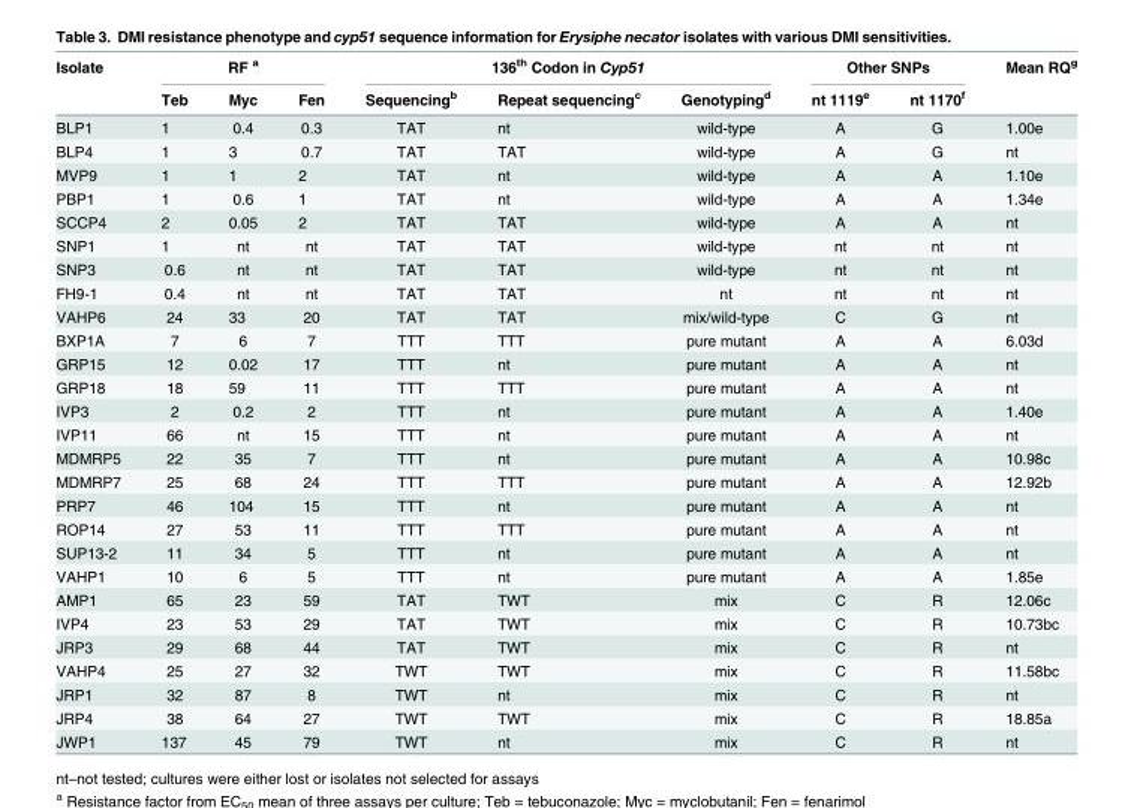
<table><thead><tr><td rowspan="2">Isolate</td><td colspan="3">RF <sup>a</sup></td><td colspan="3">136<sup>th</sup> Codon in Cyp51</td><td colspan="2">Other SNPs</td><td rowspan="2">Mean RQ<sup>g</sup></td></tr><tr><td>Teb</td><td>Myc</td><td>Fen</td><td>Sequencing<sup>b</sup></td><td>Repeat sequencing<sup>c</sup></td><td>Genotyping<sup>d</sup></td><td>nt 1119<sup>e</sup></td><td>nt 1170<sup>f</sup></td></tr></thead><tbody><tr><td>BLP1</td><td>1</td><td>0.4</td><td>0.3</td><td>TAT</td><td>nt</td><td>wild-type</td><td>A</td><td>G</td><td>1.00e</td></tr><tr><td>BLP4</td><td>1</td><td>3</td><td>0.7</td><td>TAT</td><td>TAT</td><td>wild-type</td><td>A</td><td>G</td><td>nt</td></tr><tr><td>MVP9</td><td>1</td><td>1</td><td>2</td><td>TAT</td><td>nt</td><td>wild-type</td><td>A</td><td>A</td><td>1.10e</td></tr><tr><td>PBP1</td><td>1</td><td>0.6</td><td>1</td><td>TAT</td><td>nt</td><td>wild-type</td><td>A</td><td>A</td><td>1.34e</td></tr><tr><td>SCCP4</td><td>2</td><td>0.05</td><td>2</td><td>TAT</td><td>TAT</td><td>wild-type</td><td>A</td><td>A</td><td>nt</td></tr><tr><td>SNP1</td><td>1</td><td>nt</td><td>nt</td><td>TAT</td><td>TAT</td><td>wild-type</td><td>nt</td><td>nt</td><td>nt</td></tr><tr><td>SNP3</td><td>0.6</td><td>nt</td><td>nt</td><td>TAT</td><td>TAT</td><td>wild-type</td><td>nt</td><td>nt</td><td>nt</td></tr><tr><td>FH9-1</td><td>0.4</td><td>nt</td><td>nt</td><td>TAT</td><td>TAT</td><td>nt</td><td>nt</td><td>nt</td><td>nt</td></tr><tr><td>VAHP6</td><td>24</td><td>33</td><td>20</td><td>TAT</td><td>TAT</td><td>mix/wild-type</td><td>C</td><td>G</td><td>nt</td></tr><tr><td>BXP1A</td><td>7</td><td>6</td><td>7</td><td>TTT</td><td>TTT</td><td>pure mutant</td><td>A</td><td>A</td><td>6.03d</td></tr><tr><td>GRP15</td><td>12</td><td>0.02</td><td>17</td><td>TTT</td><td>nt</td><td>pure mutant</td><td>A</td><td>A</td><td>nt</td></tr><tr><td>GRP18</td><td>18</td><td>59</td><td>11</td><td>TTT</td><td>TTT</td><td>pure mutant</td><td>A</td><td>A</td><td>nt</td></tr><tr><td>IVP3</td><td>2</td><td>0.2</td><td>2</td><td>TTT</td><td>nt</td><td>pure mutant</td><td>A</td><td>A</td><td>1.40e</td></tr><tr><td>IVP11</td><td>66</td><td>nt</td><td>15</td><td>TTT</td><td>nt</td><td>pure mutant</td><td>A</td><td>A</td><td>nt</td></tr><tr><td>MDMRP5</td><td>22</td><td>35</td><td>7</td><td>TTT</td><td>nt</td><td>pure mutant</td><td>A</td><td>A</td><td>10.98c</td></tr><tr><td>MDMRP7</td><td>25</td><td>68</td><td>24</td><td>TTT</td><td>TTT</td><td>pure mutant</td><td>A</td><td>A</td><td>12.92b</td></tr><tr><td>PRP7</td><td>46</td><td>104</td><td>15</td><td>TTT</td><td>nt</td><td>pure mutant</td><td>A</td><td>A</td><td>nt</td></tr><tr><td>ROP14</td><td>27</td><td>53</td><td>11</td><td>TTT</td><td>TTT</td><td>pure mutant</td><td>A</td><td>A</td><td>nt</td></tr><tr><td>SUP13-2</td><td>11</td><td>34</td><td>5</td><td>TTT</td><td>nt</td><td>pure mutant</td><td>A</td><td>A</td><td>nt</td></tr><tr><td>VAHP1</td><td>10</td><td>6</td><td>5</td><td>TTT</td><td>nt</td><td>pure mutant</td><td>A</td><td>A</td><td>1.85e</td></tr><tr><td>AMP1</td><td>65</td><td>23</td><td>59</td><td>TAT</td><td>TWT</td><td>mix</td><td>C</td><td>R</td><td>12.06c</td></tr><tr><td>IVP4</td><td>23</td><td>53</td><td>29</td><td>TAT</td><td>TWT</td><td>mix</td><td>C</td><td>R</td><td>10.73bc</td></tr><tr><td>JRP3</td><td>29</td><td>68</td><td>44</td><td>TAT</td><td>TWT</td><td>mix</td><td>C</td><td>R</td><td>nt</td></tr><tr><td>VAHP4</td><td>25</td><td>27</td><td>32</td><td>TWT</td><td>TWT</td><td>mix</td><td>C</td><td>R</td><td>11.58bc</td></tr><tr><td>JRP1</td><td>32</td><td>87</td><td>8</td><td>TWT</td><td>nt</td><td>mix</td><td>C</td><td>R</td><td>nt</td></tr><tr><td>JRP4</td><td>38</td><td>64</td><td>27</td><td>TWT</td><td>TWT</td><td>mix</td><td>C</td><td>R</td><td>18.85a</td></tr><tr><td>JWP1</td><td>137</td><td>45</td><td>79</td><td>TWT</td><td>nt</td><td>mix</td><td>C</td><td>R</td><td>nt</td></tr></tbody></table>